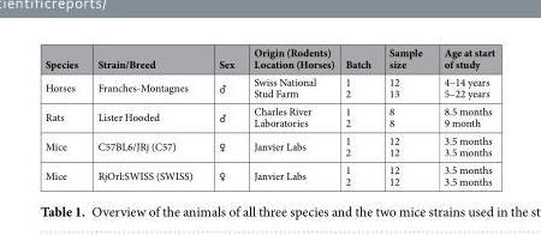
<table><thead><tr><td>Species</td><td>Strain/Breed</td><td>Sex</td><td>Origin (Rodents) Location (Horses)</td><td>Batch</td><td>Sample size</td><td>Age at start of study</td></tr></thead><tbody><tr><td>Horses</td><td>Franches-Montagnes</td><td>♂</td><td>Swiss National Stud Farm</td><td>1 2</td><td>12 13</td><td>4–14 years 5–22 years</td></tr><tr><td>Rats</td><td>Lister Hooded</td><td>♂</td><td>Charles River Laboratories</td><td>1 2</td><td>8 8</td><td>8.5 months 9 month</td></tr><tr><td>Mice</td><td>C57BL6/JRj (C57)</td><td>♀</td><td>Janvier Labs</td><td>1 2</td><td>12 12</td><td>3.5 months 3.5 months</td></tr><tr><td>Mice</td><td>RjOrl:SWISS (SWISS)</td><td>♀</td><td>Janvier Labs</td><td>1 2</td><td>12 12</td><td>3.5 months 3.5 months</td></tr></tbody></table>